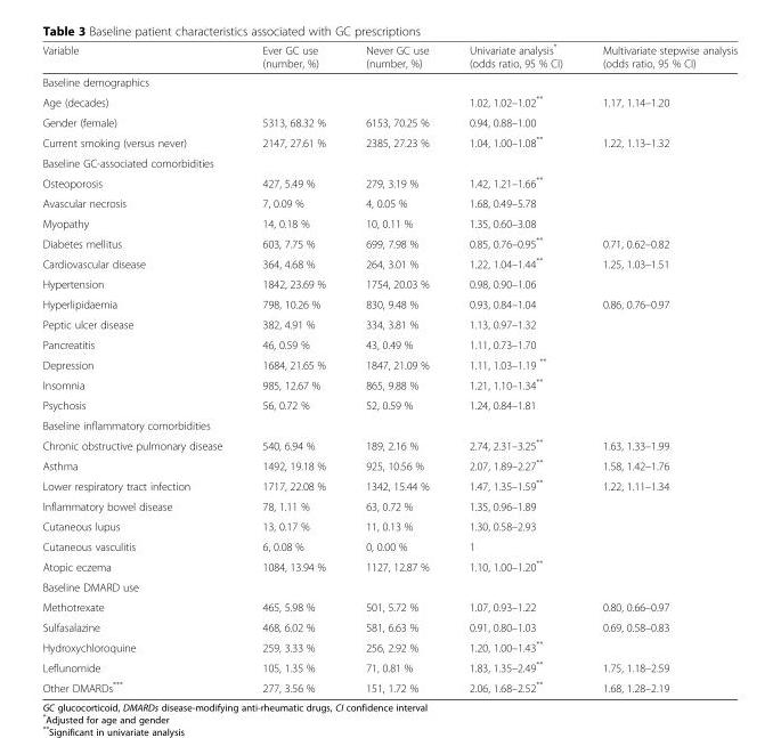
<table><thead><tr><td>Variable</td><td>Ever GC use (number, %)</td><td>Never GC use (number, %)</td><td>Univariate analysis* (odds ratio, 95 % CI)</td><td>Multivariate stepwise analysis (odds ratio, 95 % CI)</td></tr></thead><tbody><tr><td colspan="5">Baseline demographics</td></tr><tr><td>Age (decades)</td><td></td><td></td><td>1.02, 1.02–1.02**</td><td>1.17, 1.14–1.20</td></tr><tr><td>Gender (female)</td><td>5313, 68.32 %</td><td>6153, 70.25 %</td><td>0.94, 0.88–1.00</td><td></td></tr><tr><td>Current smoking (versus never)</td><td>2147, 27.61 %</td><td>2385, 27.23 %</td><td>1.04, 1.00–1.08**</td><td>1.22, 1.13–1.32</td></tr><tr><td colspan="5">Baseline GC-associated comorbidities</td></tr><tr><td>Osteoporosis</td><td>427, 5.49 %</td><td>279, 3.19 %</td><td>1.42, 1.21–1.66**</td><td></td></tr><tr><td>Avascular necrosis</td><td>7, 0.09 %</td><td>4, 0.05 %</td><td>1.68, 0.49–5.78</td><td></td></tr><tr><td>Myopathy</td><td>14, 0.18 %</td><td>10, 0.11 %</td><td>1.35, 0.60–3.08</td><td></td></tr><tr><td>Diabetes mellitus</td><td>603, 7.75 %</td><td>699, 7.98 %</td><td>0.85, 0.76–0.95**</td><td>0.71, 0.62–0.82</td></tr><tr><td>Cardiovascular disease</td><td>364, 4.68 %</td><td>264, 3.01 %</td><td>1.22, 1.04–1.44**</td><td>1.25, 1.03–1.51</td></tr><tr><td>Hypertension</td><td>1842, 23.69 %</td><td>1754, 20.03 %</td><td>0.98, 0.90–1.06</td><td></td></tr><tr><td>Hyperlipidaemia</td><td>798, 10.26 %</td><td>830, 9.48 %</td><td>0.93, 0.84–1.04</td><td>0.86, 0.76–0.97</td></tr><tr><td>Peptic ulcer disease</td><td>382, 4.91 %</td><td>334, 3.81 %</td><td>1.13, 0.97–1.32</td><td></td></tr><tr><td>Pancreatitis</td><td>46, 0.59 %</td><td>43, 0.49 %</td><td>1.11, 0.73–1.70</td><td></td></tr><tr><td>Depression</td><td>1684, 21.65 %</td><td>1847, 21.09 %</td><td>1.11, 1.03–1.19 **</td><td></td></tr><tr><td>Insomnia</td><td>985, 12.67 %</td><td>865, 9.88 %</td><td>1.21, 1.10–1.34**</td><td></td></tr><tr><td>Psychosis</td><td>56, 0.72 %</td><td>52, 0.59 %</td><td>1.24, 0.84–1.81</td><td></td></tr><tr><td colspan="5">Baseline inflammatory comorbidities</td></tr><tr><td>Chronic obstructive pulmonary disease</td><td>540, 6.94 %</td><td>189, 2.16 %</td><td>2.74, 2.31–3.25**</td><td>1.63, 1.33–1.99</td></tr><tr><td>Asthma</td><td>1492, 19.18 %</td><td>925, 10.56 %</td><td>2.07, 1.89–2.27**</td><td>1.58, 1.42–1.76</td></tr><tr><td>Lower respiratory tract infection</td><td>1717, 22.08 %</td><td>1342, 15.44 %</td><td>1.47, 1.35–1.59**</td><td>1.22, 1.11–1.34</td></tr><tr><td>Inflammatory bowel disease</td><td>78, 1.11 %</td><td>63, 0.72 %</td><td>1.35, 0.96–1.89</td><td></td></tr><tr><td>Cutaneous lupus</td><td>13, 0.17 %</td><td>11, 0.13 %</td><td>1.30, 0.58–2.93</td><td></td></tr><tr><td>Cutaneous vasculitis</td><td>6, 0.08 %</td><td>0, 0.00 %</td><td>1</td><td></td></tr><tr><td>Atopic eczema</td><td>1084, 13.94 %</td><td>1127, 12.87 %</td><td>1.10, 1.00–1.20**</td><td></td></tr><tr><td colspan="5">Baseline DMARD use</td></tr><tr><td>Methotrexate</td><td>465, 5.98 %</td><td>501, 5.72 %</td><td>1.07, 0.93–1.22</td><td>0.80, 0.66–0.97</td></tr><tr><td>Sulfasalazine</td><td>468, 6.02 %</td><td>581, 6.63 %</td><td>0.91, 0.80–1.03</td><td>0.69, 0.58–0.83</td></tr><tr><td>Hydroxychloroquine</td><td>259, 3.33 %</td><td>256, 2.92 %</td><td>1.20, 1.00–1.43**</td><td></td></tr><tr><td>Leflunomide</td><td>105, 1.35 %</td><td>71, 0.81 %</td><td>1.83, 1.35–2.49**</td><td>1.75, 1.18–2.59</td></tr><tr><td>Other DMARDs***</td><td>277, 3.56 %</td><td>151, 1.72 %</td><td>2.06, 1.68–2.52**</td><td>1.68, 1.28–2.19</td></tr></tbody></table>